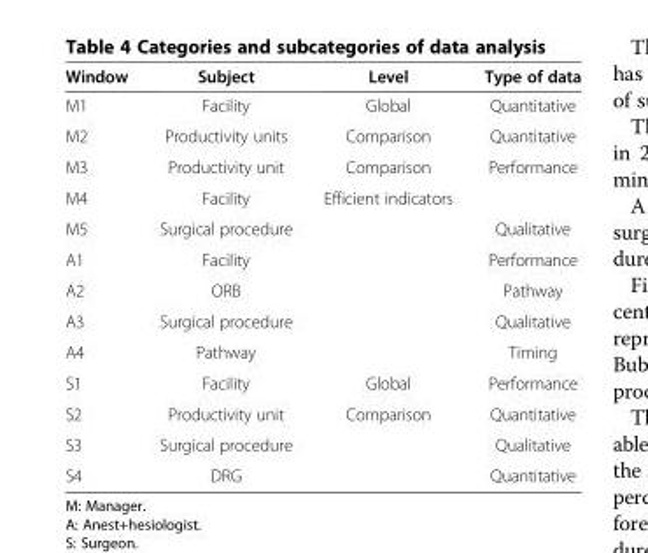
<table><thead><tr><td>Window</td><td>Subject</td><td>Level</td><td>Type of data</td></tr></thead><tbody><tr><td>M1</td><td>Facility</td><td>Global</td><td>Quantitative</td></tr><tr><td>M2</td><td>Productivity units</td><td>Comparison</td><td>Quantitative</td></tr><tr><td>M3</td><td>Productivity unit</td><td>Comparison</td><td>Performance</td></tr><tr><td>M4</td><td>Facility</td><td>Efficient indicators</td><td></td></tr><tr><td>M5</td><td>Surgical procedure</td><td></td><td>Qualitative</td></tr><tr><td>A1</td><td>Facility</td><td></td><td>Performance</td></tr><tr><td>A2</td><td>ORB</td><td></td><td>Pathway</td></tr><tr><td>A3</td><td>Surgical procedure</td><td></td><td>Qualitative</td></tr><tr><td>A4</td><td>Pathway</td><td></td><td>Timing</td></tr><tr><td>S1</td><td>Facility</td><td>Global</td><td>Performance</td></tr><tr><td>S2</td><td>Productivity unit</td><td>Comparison</td><td>Quantitative</td></tr><tr><td>S3</td><td>Surgical procedure</td><td></td><td>Qualitative</td></tr><tr><td>S4</td><td>DRG</td><td></td><td>Quantitative</td></tr></tbody></table>